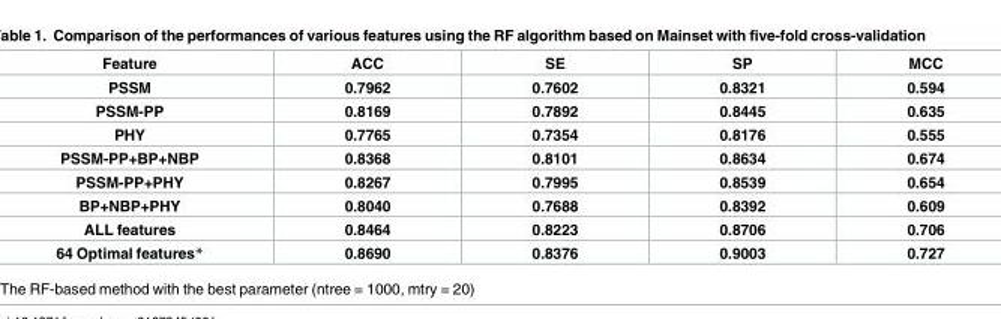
<table><thead><tr><td>Feature</td><td>ACC</td><td>SE</td><td>SP</td><td>MCC</td></tr></thead><tbody><tr><td>PSSM</td><td>0.7962</td><td>0.7602</td><td>0.8321</td><td>0.594</td></tr><tr><td>PSSM-PP</td><td>0.8169</td><td>0.7892</td><td>0.8445</td><td>0.635</td></tr><tr><td>PHY</td><td>0.7765</td><td>0.7354</td><td>0.8176</td><td>0.555</td></tr><tr><td>PSSM-PP+BP+NBP</td><td>0.8368</td><td>0.8101</td><td>0.8634</td><td>0.674</td></tr><tr><td>PSSM-PP+PHY</td><td>0.8267</td><td>0.7995</td><td>0.8539</td><td>0.654</td></tr><tr><td>BP+NBP+PHY</td><td>0.8040</td><td>0.7688</td><td>0.8392</td><td>0.609</td></tr><tr><td>ALL features</td><td>0.8464</td><td>0.8223</td><td>0.8706</td><td>0.706</td></tr><tr><td>64 Optimal features*</td><td>0.8690</td><td>0.8376</td><td>0.9003</td><td>0.727</td></tr></tbody></table>